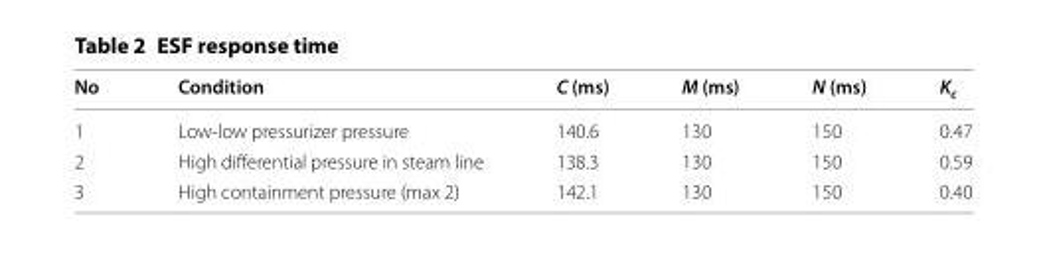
<table><thead><tr><td>No</td><td>Condition</td><td>C (ms)</td><td>M (ms)</td><td>N (ms)</td><td>K<sub>c</sub></td></tr></thead><tbody><tr><td>1</td><td>Low‑low pressurizer pressure</td><td>140.6</td><td>130</td><td>150</td><td>0.47</td></tr><tr><td>2</td><td>High differential pressure in steam line</td><td>138.3</td><td>130</td><td>150</td><td>0.59</td></tr><tr><td>3</td><td>High containment pressure (max 2)</td><td>142.1</td><td>130</td><td>150</td><td>0.40</td></tr></tbody></table>